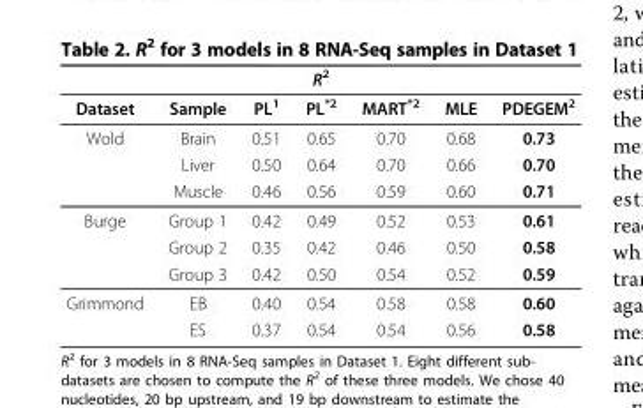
<table><thead><tr><td colspan="7">R2</td></tr><tr><td>Dataset</td><td>Sample</td><td>PL1</td><td>PL*2</td><td>MART*2</td><td>MLE</td><td>PDEGEM2</td></tr></thead><tbody><tr><td rowspan="3">Wold</td><td>Brain</td><td>0.51</td><td>0.65</td><td>0.70</td><td>0.68</td><td>0.73</td></tr><tr><td>Liver</td><td>0.50</td><td>0.64</td><td>0.70</td><td>0.66</td><td>0.70</td></tr><tr><td>Muscle</td><td>0.46</td><td>0.56</td><td>0.59</td><td>0.60</td><td>0.71</td></tr><tr><td rowspan="3">Burge</td><td>Group 1</td><td>0.42</td><td>0.49</td><td>0.52</td><td>0.53</td><td>0.61</td></tr><tr><td>Group 2</td><td>0.35</td><td>0.42</td><td>0.46</td><td>0.50</td><td>0.58</td></tr><tr><td>Group 3</td><td>0.42</td><td>0.50</td><td>0.54</td><td>0.52</td><td>0.59</td></tr><tr><td rowspan="2">Grimmond</td><td>EB</td><td>0.40</td><td>0.54</td><td>0.58</td><td>0.58</td><td>0.60</td></tr><tr><td>ES</td><td>0.37</td><td>0.54</td><td>0.54</td><td>0.56</td><td>0.58</td></tr></tbody></table>